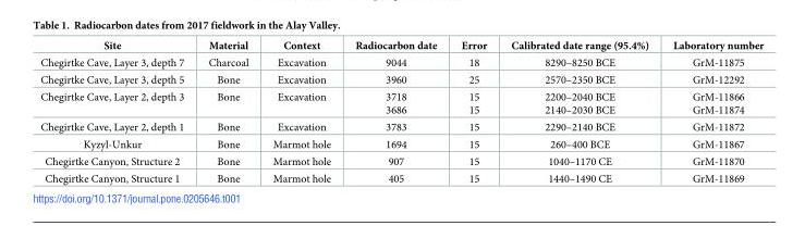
<table><thead><tr><td>Site</td><td>Material</td><td>Context</td><td>Radiocarbon date</td><td>Error</td><td>Calibrated date range (95.4%)</td><td>Laboratory number</td></tr></thead><tbody><tr><td>Chegirtke Cave, Layer 3, depth 7</td><td>Charcoal</td><td>Excavation</td><td>9044</td><td>18</td><td>8290–8250 BCE</td><td>GrM-11875</td></tr><tr><td>Chegirtke Cave, Layer 3, depth 5</td><td>Bone</td><td>Excavation</td><td>3960</td><td>25</td><td>2570–2350 BCE</td><td>GrM-12292</td></tr><tr><td>Chegirtke Cave, Layer 2, depth 3</td><td>Bone</td><td>Excavation</td><td>3718 3686</td><td>15 15</td><td>2200–2040 BCE 2140–2030 BCE</td><td>GrM-11866 GrM-11874</td></tr><tr><td>Chegirtke Cave, Layer 2, depth 1</td><td>Bone</td><td>Excavation</td><td>3783</td><td>15</td><td>2290–2140 BCE</td><td>GrM-11872</td></tr><tr><td>Kyzyl-Unkur</td><td>Bone</td><td>Marmot hole</td><td>1694</td><td>15</td><td>260–400 BCE</td><td>GrM-11867</td></tr><tr><td>Chegirtke Canyon, Structure 2</td><td>Bone</td><td>Marmot hole</td><td>907</td><td>15</td><td>1040–1170 CE</td><td>GrM-11870</td></tr><tr><td>Chegirtke Canyon, Structure 1</td><td>Bone</td><td>Marmot hole</td><td>405</td><td>15</td><td>1440–1490 CE</td><td>GrM-11869</td></tr></tbody></table>